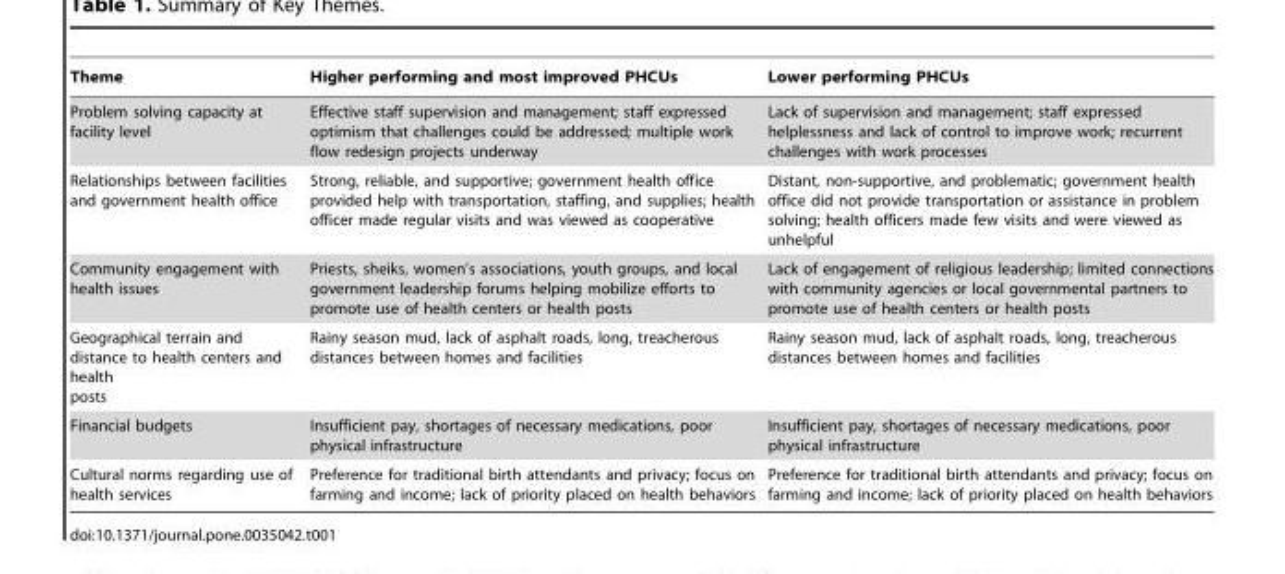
<table><thead><tr><td>Theme</td><td>Higher performing and most improved PHCUs</td><td>Lower performing PHCUs</td></tr></thead><tbody><tr><td>Problem solving capacity at facility level</td><td>Effective staff supervision and management; staff expressed optimism that challenges could be addressed; multiple work flow redesign projects underway</td><td>Lack of supervision and management; staff expressed helplessness and lack of control to improve work; recurrent challenges with work processes</td></tr><tr><td>Relationships between facilities and government health office</td><td>Strong, reliable, and supportive; government health office provided help with transportation, staffing, and supplies; health officer made regular visits and was viewed as cooperative</td><td>Distant, non-supportive, and problematic; government health office did not provide transportation or assistance in problem solving; health officers made few visits and were viewed as unhelpful</td></tr><tr><td>Community engagement with health issues</td><td>Priests, sheiks, women’s associations, youth groups, and local government leadership forums helping mobilize efforts to promote use of health centers or health posts</td><td>Lack of engagement of religious leadership; limited connections with community agencies or local governmental partners to promote use of health centers or health posts</td></tr><tr><td>Geographical terrain and distance to health centers and health posts</td><td>Rainy season mud, lack of asphalt roads, long, treacherous distances between homes and facilities</td><td>Rainy season mud, lack of asphalt roads, long, treacherous distances between homes and facilities</td></tr><tr><td>Financial budgets</td><td>Insufficient pay, shortages of necessary medications, poor physical infrastructure</td><td>Insufficient pay, shortages of necessary medications, poor physical infrastructure</td></tr><tr><td>Cultural norms regarding use of health services</td><td>Preference for traditional birth attendants and privacy; focus on farming and income; lack of priority placed on health behaviors</td><td>Preference for traditional birth attendants and privacy; focus on farming and income; lack of priority placed on health behaviors</td></tr></tbody></table>